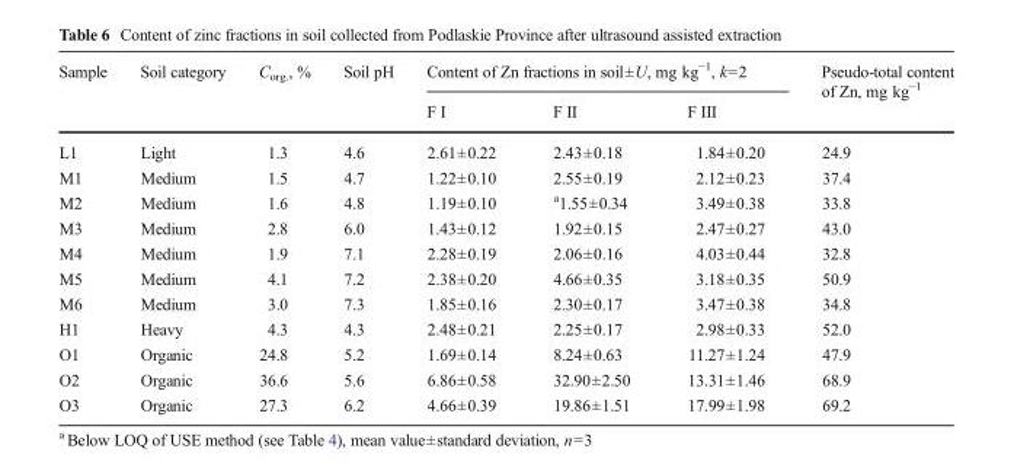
<table><thead><tr><td rowspan="2">Sample</td><td rowspan="2">Soil category</td><td rowspan="2">C<sub>org.</sub>, %</td><td rowspan="2">Soil pH</td><td colspan="3">Content of Zn fractions in soil±U, mg kg<sup>−1</sup>, k=2</td><td rowspan="2">Pseudo-total content of Zn, mg kg<sup>−1</sup></td></tr><tr><td>F I</td><td>F II</td><td>F III</td></tr></thead><tbody><tr><td>L1</td><td>Light</td><td>1.3</td><td>4.6</td><td>2.61±0.22</td><td>2.43±0.18</td><td>1.84±0.20</td><td>24.9</td></tr><tr><td>M1</td><td>Medium</td><td>1.5</td><td>4.7</td><td>1.22±0.10</td><td>2.55±0.19</td><td>2.12±0.23</td><td>37.4</td></tr><tr><td>M2</td><td>Medium</td><td>1.6</td><td>4.8</td><td>1.19±0.10</td><td><sup>a</sup>1.55±0.34</td><td>3.49±0.38</td><td>33.8</td></tr><tr><td>M3</td><td>Medium</td><td>2.8</td><td>6.0</td><td>1.43±0.12</td><td>1.92±0.15</td><td>2.47±0.27</td><td>43.0</td></tr><tr><td>M4</td><td>Medium</td><td>1.9</td><td>7.1</td><td>2.28±0.19</td><td>2.06±0.16</td><td>4.03±0.44</td><td>32.8</td></tr><tr><td>M5</td><td>Medium</td><td>4.1</td><td>7.2</td><td>2.38±0.20</td><td>4.66±0.35</td><td>3.18±0.35</td><td>50.9</td></tr><tr><td>M6</td><td>Medium</td><td>3.0</td><td>7.3</td><td>1.85±0.16</td><td>2.30±0.17</td><td>3.47±0.38</td><td>34.8</td></tr><tr><td>H1</td><td>Heavy</td><td>4.3</td><td>4.3</td><td>2.48±0.21</td><td>2.25±0.17</td><td>2.98±0.33</td><td>52.0</td></tr><tr><td>O1</td><td>Organic</td><td>24.8</td><td>5.2</td><td>1.69±0.14</td><td>8.24±0.63</td><td>11.27±1.24</td><td>47.9</td></tr><tr><td>O2</td><td>Organic</td><td>36.6</td><td>5.6</td><td>6.86±0.58</td><td>32.90±2.50</td><td>13.31±1.46</td><td>68.9</td></tr><tr><td>O3</td><td>Organic</td><td>27.3</td><td>6.2</td><td>4.66±0.39</td><td>19.86±1.51</td><td>17.99±1.98</td><td>69.2</td></tr></tbody></table>